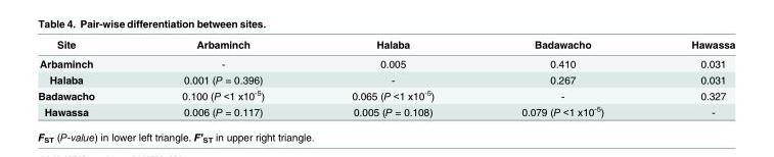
<table><thead><tr><td>Site</td><td>Arbaminch</td><td>Halaba</td><td>Badawacho</td><td>Hawassa</td></tr></thead><tbody><tr><td>Arbaminch</td><td>-</td><td>0.005</td><td>0.410</td><td>0.031</td></tr><tr><td>Halaba</td><td>0.001 (P = 0.396)</td><td>-</td><td>0.267</td><td>0.031</td></tr><tr><td>Badawacho</td><td>0.100 (P &lt;1 x10<sup>-5</sup>)</td><td>0.065 (P &lt;1 x10<sup>-5</sup>)</td><td>-</td><td>0.327</td></tr><tr><td>Hawassa</td><td>0.006 (P = 0.117)</td><td>0.005 (P = 0.108)</td><td>0.079 (P &lt;1 x10<sup>-5</sup>)</td><td>-</td></tr></tbody></table>